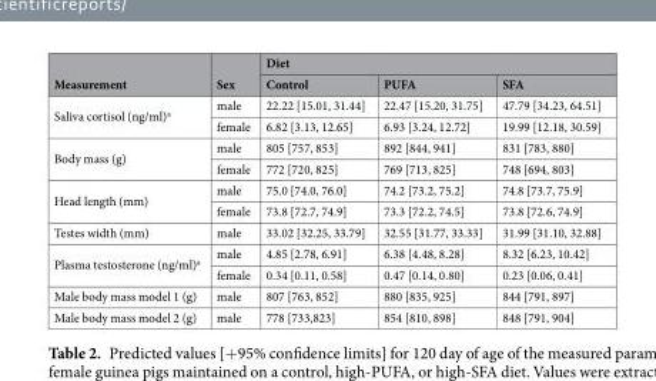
<table><thead><tr><td rowspan="2">Measurement</td><td rowspan="2">Sex</td><td colspan="3">Diet</td></tr><tr><td>Control</td><td>PUFA</td><td>SFA</td></tr></thead><tbody><tr><td rowspan="2">Saliva cortisol (ng/ml)<sup>a</sup></td><td>male</td><td>22.22 [15.01, 31.44]</td><td>22.47 [15.20, 31.75]</td><td>47.79 [34.23, 64.51]</td></tr><tr><td>female</td><td>6.82 [3.13, 12.65]</td><td>6.93 [3.24, 12.72]</td><td>19.99 [12.18, 30.59]</td></tr><tr><td rowspan="2">Body mass (g)</td><td>male</td><td>805 [757, 853]</td><td>892 [844, 941]</td><td>831 [783, 880]</td></tr><tr><td>female</td><td>772 [720, 825]</td><td>769 [713, 825]</td><td>748 [694, 803]</td></tr><tr><td rowspan="2">Head length (mm)</td><td>male</td><td>75.0 [74.0, 76.0]</td><td>74.2 [73.2, 75.2]</td><td>74.8 [73.7, 75.9]</td></tr><tr><td>female</td><td>73.8 [72.7, 74.9]</td><td>73.3 [72.2, 74.5]</td><td>73.8 [72.6, 74.9]</td></tr><tr><td>Testes width (mm)</td><td>male</td><td>33.02 [32.25, 33.79]</td><td>32.55 [31.77, 33.33]</td><td>31.99 [31.10, 32.88]</td></tr><tr><td rowspan="2">Plasma testosterone (ng/ml)<sup>a</sup></td><td>male</td><td>4.85 [2.78, 6.91]</td><td>6.38 [4.48, 8.28]</td><td>8.32 [6.23, 10.42]</td></tr><tr><td>female</td><td>0.34 [0.11, 0.58]</td><td>0.47 [0.14, 0.80]</td><td>0.23 [0.06, 0.41]</td></tr><tr><td>Male body mass model 1 (g)</td><td>male</td><td>807 [763, 852]</td><td>880 [835, 925]</td><td>844 [791, 897]</td></tr><tr><td>Male body mass model 2 (g)</td><td>male</td><td>778 [733,823]</td><td>854 [810, 898]</td><td>848 [791, 904]</td></tr></tbody></table>